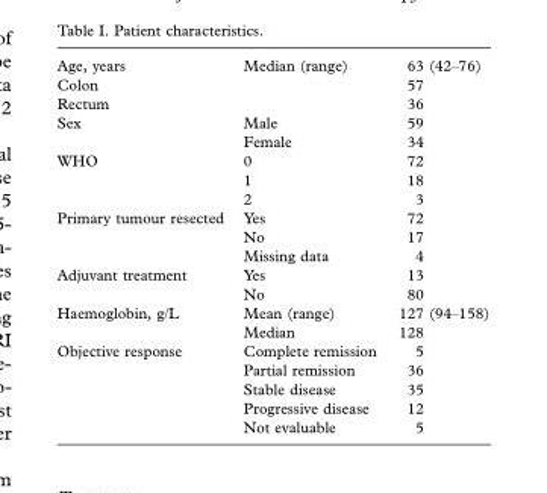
<table><tbody><tr><td>Age, years</td><td>Median (range)</td><td>63 (42–76)</td></tr><tr><td>Colon</td><td></td><td>57</td></tr><tr><td>Rectum</td><td></td><td>36</td></tr><tr><td rowspan="2">Sex</td><td>Male</td><td>59</td></tr><tr><td>Female</td><td>34</td></tr><tr><td rowspan="3">WHO</td><td>0</td><td>72</td></tr><tr><td>1</td><td>18</td></tr><tr><td>2</td><td>3</td></tr><tr><td rowspan="3">Primary tumour resected</td><td>Yes</td><td>72</td></tr><tr><td>No</td><td>17</td></tr><tr><td>Missing data</td><td>4</td></tr><tr><td rowspan="2">Adjuvant treatment</td><td>Yes</td><td>13</td></tr><tr><td>No</td><td>80</td></tr><tr><td rowspan="2">Haemoglobin, g/L</td><td>Mean (range)</td><td>127 (94–158)</td></tr><tr><td>Median</td><td>128</td></tr><tr><td rowspan="5">Objective response</td><td>Complete remission</td><td>5</td></tr><tr><td>Partial remission</td><td>36</td></tr><tr><td>Stable disease</td><td>35</td></tr><tr><td>Progressive disease</td><td>12</td></tr><tr><td>Not evaluable</td><td>5</td></tr></tbody></table>